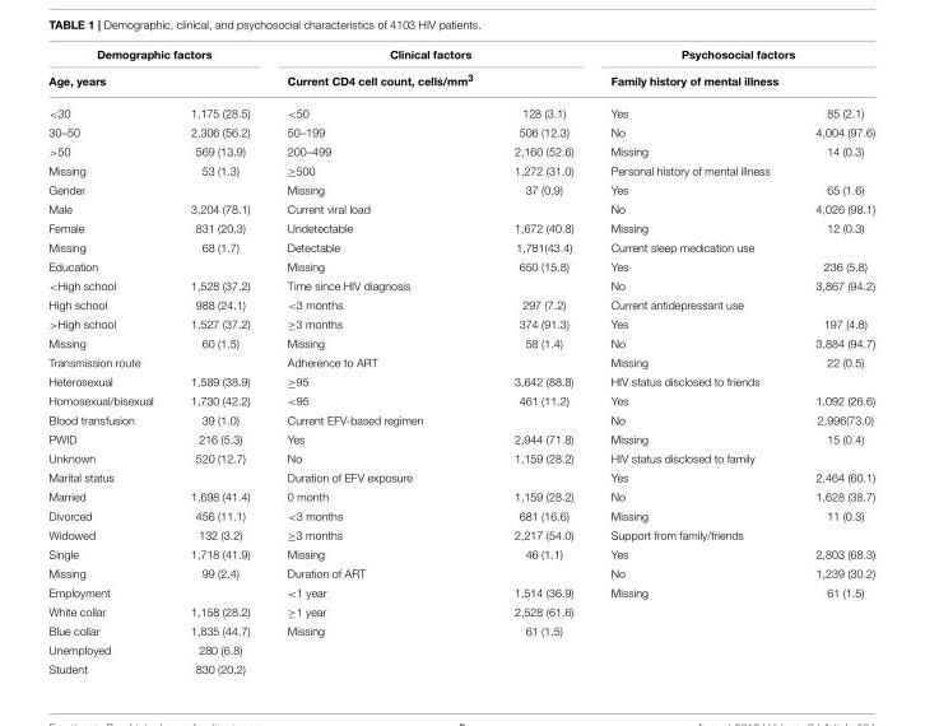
<table><thead><tr><td colspan="2">Demographic factors</td><td colspan="2">Clinical factors</td><td colspan="2">Psychosocial factors</td></tr><tr><td>Age, years</td><td></td><td>Current CD4 cell count, cells/mm<sup>3</sup></td><td></td><td>Family history of mental illness</td><td></td></tr></thead><tbody><tr><td>&lt;30</td><td>1,175 (28.5)</td><td>&lt;50</td><td>128 (3.1)</td><td>Yes</td><td>85 (2.1)</td></tr><tr><td>30–50</td><td>2,306 (56.2)</td><td>50–199</td><td>506 (12.3)</td><td>No</td><td>4,004 (97.6)</td></tr><tr><td>&gt;50</td><td>569 (13.9)</td><td>200–499</td><td>2,160 (52.6)</td><td>Missing</td><td>14 (0.3)</td></tr><tr><td>Missing</td><td>53 (1.3)</td><td>≥500</td><td>1,272 (31.0)</td><td>Personal history of mental illness</td><td></td></tr><tr><td>Gender</td><td></td><td>Missing</td><td>37 (0.9)</td><td>Yes</td><td>65 (1.6)</td></tr><tr><td>Male</td><td>3,204 (78.1)</td><td>Current viral load</td><td></td><td>No</td><td>4,026 (98.1)</td></tr><tr><td>Female</td><td>831 (20.3)</td><td>Undetectable</td><td>1,672 (40.8)</td><td>Missing</td><td>12 (0.3)</td></tr><tr><td>Missing</td><td>68 (1.7)</td><td>Detectable</td><td>1,781(43.4)</td><td>Current sleep medication use</td><td></td></tr><tr><td>Education</td><td></td><td>Missing</td><td>650 (15.8)</td><td>Yes</td><td>236 (5.8)</td></tr><tr><td>&lt;High school</td><td>1,528 (37.2)</td><td>Time since HIV diagnosis</td><td></td><td>No</td><td>3,867 (94.2)</td></tr><tr><td>High school</td><td>988 (24.1)</td><td>&lt;3 months</td><td>297 (7.2)</td><td>Current antidepressant use</td><td></td></tr><tr><td>&gt;High school</td><td>1,527 (37.2)</td><td>≥3 months</td><td>374 (91.3)</td><td>Yes</td><td>197 (4.8)</td></tr><tr><td>Missing</td><td>60 (1.5)</td><td>Missing</td><td>58 (1.4)</td><td>No</td><td>3,884 (94.7)</td></tr><tr><td>Transmission route</td><td></td><td>Adherence to ART</td><td></td><td>Missing</td><td>22 (0.5)</td></tr><tr><td>Heterosexual</td><td>1,589 (38.9)</td><td>≥95</td><td>3,642 (88.8)</td><td>HIV status disclosed to friends</td><td></td></tr><tr><td>Homosexual/bisexual</td><td>1,730 (42.2)</td><td>&lt;95</td><td>461 (11.2)</td><td>Yes</td><td>1,092 (26.6)</td></tr><tr><td>Blood transfusion</td><td>39 (1.0)</td><td>Current EFV-based regimen</td><td></td><td>No</td><td>2,996(73.0)</td></tr><tr><td>PWID</td><td>216 (5.3)</td><td>Yes</td><td>2,944 (71.8)</td><td>Missing</td><td>15 (0.4)</td></tr><tr><td>Unknown</td><td>520 (12.7)</td><td>No</td><td>1,159 (28.2)</td><td>HIV status disclosed to family</td><td></td></tr><tr><td>Marital status</td><td></td><td>Duration of EFV exposure</td><td></td><td>Yes</td><td>2,464 (60.1)</td></tr><tr><td>Married</td><td>1,698 (41.4)</td><td>0 month</td><td>1,159 (28.2)</td><td>No</td><td>1,628 (38.7)</td></tr><tr><td>Divorced</td><td>456 (11.1)</td><td>&lt;3 months</td><td>681 (16.6)</td><td>Missing</td><td>11 (0.3)</td></tr><tr><td>Widowed</td><td>132 (3.2)</td><td>≥3 months</td><td>2,217 (54.0)</td><td>Support from family/friends</td><td></td></tr><tr><td>Single</td><td>1,718 (41.9)</td><td>Missing</td><td>46 (1.1)</td><td>Yes</td><td>2,803 (68.3)</td></tr><tr><td>Missing</td><td>99 (2.4)</td><td>Duration of ART</td><td></td><td>No</td><td>1,239 (30.2)</td></tr><tr><td>Employment</td><td></td><td>&lt;1 year</td><td>1,514 (36.9)</td><td>Missing</td><td>61 (1.5)</td></tr><tr><td>White collar</td><td>1,158 (28.2)</td><td>≥1 year</td><td>2,528 (61.6)</td><td></td><td></td></tr><tr><td>Blue collar</td><td>1,835 (44.7)</td><td>Missing</td><td>61 (1.5)</td><td></td><td></td></tr><tr><td>Unemployed</td><td>280 (6.8)</td><td></td><td></td><td></td><td></td></tr><tr><td>Student</td><td>830 (20.2)</td><td></td><td></td><td></td><td></td></tr></tbody></table>